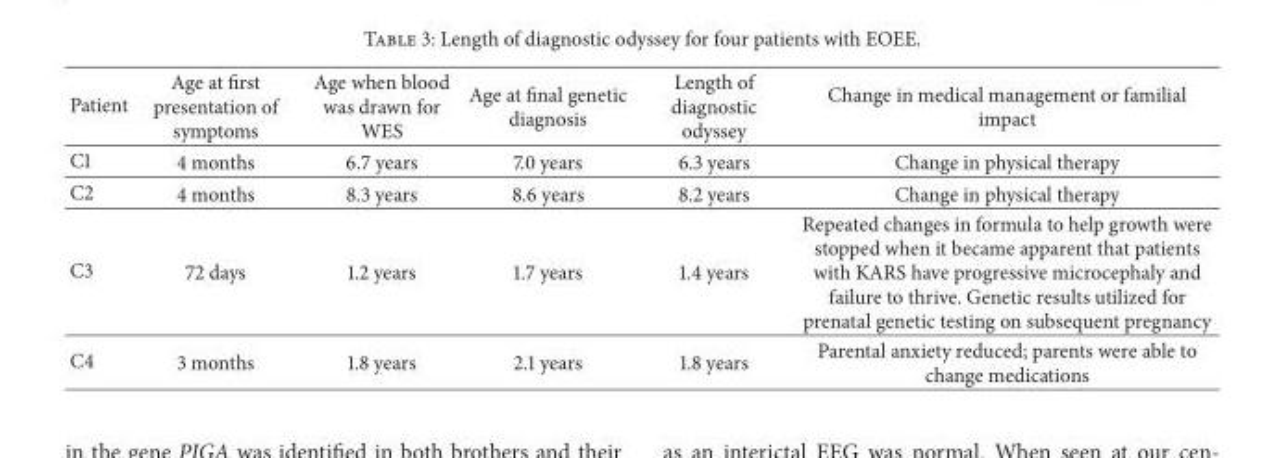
<table><thead><tr><td>Patient</td><td>Age at first presentation of symptoms</td><td>Age when blood was drawn for WES</td><td>Age at final genetic diagnosis</td><td>Length of diagnostic odyssey</td><td>Change in medical management or familial impact</td></tr></thead><tbody><tr><td>C1</td><td>4 months</td><td>6.7 years</td><td>7.0 years</td><td>6.3 years</td><td>Change in physical therapy</td></tr><tr><td>C2</td><td>4 months</td><td>8.3 years</td><td>8.6 years</td><td>8.2 years</td><td>Change in physical therapy</td></tr><tr><td>C3</td><td>72 days</td><td>1.2 years</td><td>1.7 years</td><td>1.4 years</td><td>Repeated changes in formula to help growth were stopped when it became apparent that patients with KARS have progressive microcephaly and failure to thrive. Genetic results utilized for prenatal genetic testing on subsequent pregnancy</td></tr><tr><td>C4</td><td>3 months</td><td>1.8 years</td><td>2.1 years</td><td>1.8 years</td><td>Parental anxiety reduced; parents were able to change medications</td></tr></tbody></table>